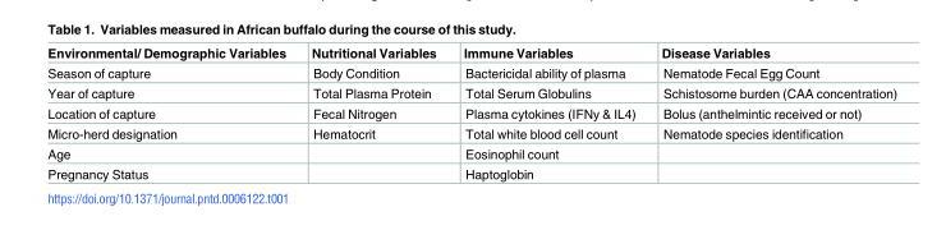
<table><thead><tr><td>Environmental/ Demographic Variables</td><td>Nutritional Variables</td><td>Immune Variables</td><td>Disease Variables</td></tr></thead><tbody><tr><td>Season of capture</td><td>Body Condition</td><td>Bactericidal ability of plasma</td><td>Nematode Fecal Egg Count</td></tr><tr><td>Year of capture</td><td>Total Plasma Protein</td><td>Total Serum Globulins</td><td>Schistosome burden (CAA concentration)</td></tr><tr><td>Location of capture</td><td>Fecal Nitrogen</td><td>Plasma cytokines (IFNy &amp; IL4)</td><td>Bolus (anthelmintic received or not)</td></tr><tr><td>Micro-herd designation</td><td>Hematocrit</td><td>Total white blood cell count</td><td>Nematode species identification</td></tr><tr><td>Age</td><td></td><td>Eosinophil count</td><td></td></tr><tr><td>Pregnancy Status</td><td></td><td>Haptoglobin</td><td></td></tr></tbody></table>